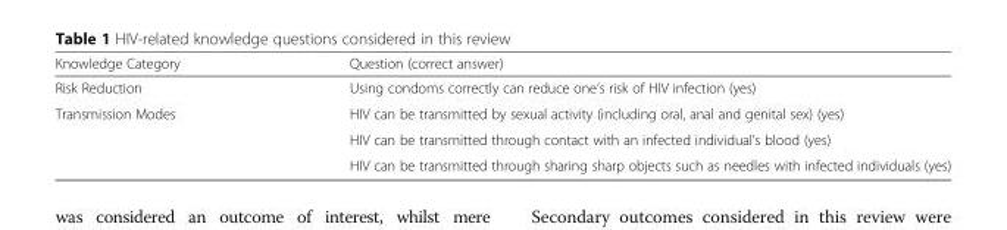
<table><thead><tr><td>Knowledge Category</td><td>Question (correct answer)</td></tr></thead><tbody><tr><td>Risk Reduction</td><td>Using condoms correctly can reduce one’s risk of HIV infection (yes)</td></tr><tr><td rowspan="3">Transmission Modes</td><td>HIV can be transmitted by sexual activity (including oral, anal and genital sex) (yes)</td></tr><tr><td>HIV can be transmitted through contact with an infected individual’s blood (yes)</td></tr><tr><td>HIV can be transmitted through sharing sharp objects such as needles with infected individuals (yes)</td></tr></tbody></table>